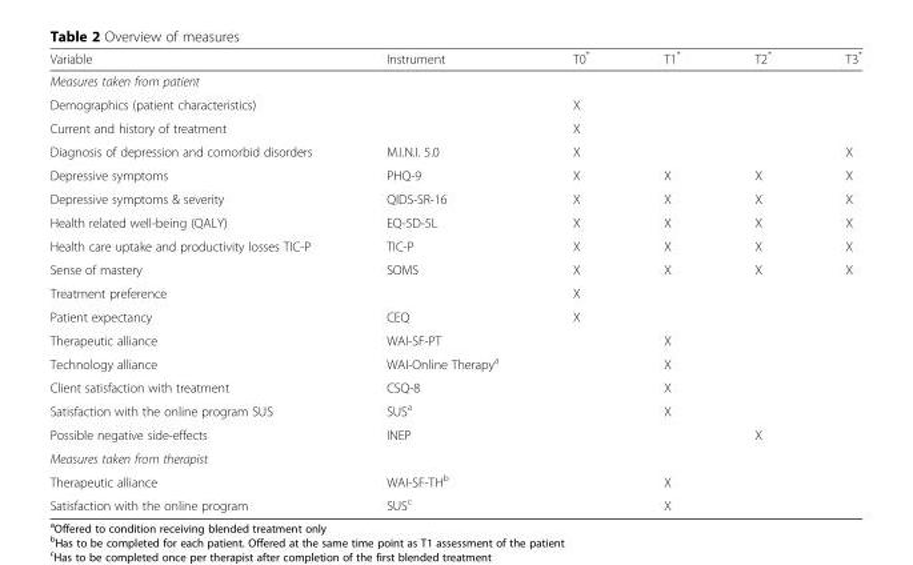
<table><thead><tr><td>Variable</td><td>Instrument</td><td>T0*</td><td>T1*</td><td>T2*</td><td>T3*</td></tr></thead><tbody><tr><td colspan="6">Measures taken from patient</td></tr><tr><td>Demographics (patient characteristics)</td><td></td><td>X</td><td></td><td></td><td></td></tr><tr><td>Current and history of treatment</td><td></td><td>X</td><td></td><td></td><td></td></tr><tr><td>Diagnosis of depression and comorbid disorders</td><td>M.I.N.I. 5.0</td><td>X</td><td></td><td></td><td>X</td></tr><tr><td>Depressive symptoms</td><td>PHQ-9</td><td>X</td><td>X</td><td>X</td><td>X</td></tr><tr><td>Depressive symptoms &amp; severity</td><td>QIDS-SR-16</td><td>X</td><td>X</td><td>X</td><td>X</td></tr><tr><td>Health related well-being (QALY)</td><td>EQ-5D-5L</td><td>X</td><td>X</td><td>X</td><td>X</td></tr><tr><td>Health care uptake and productivity losses TIC-P</td><td>TIC-P</td><td>X</td><td>X</td><td>X</td><td>X</td></tr><tr><td>Sense of mastery</td><td>SOMS</td><td>X</td><td>X</td><td>X</td><td>X</td></tr><tr><td>Treatment preference</td><td></td><td>X</td><td></td><td></td><td></td></tr><tr><td>Patient expectancy</td><td>CEQ</td><td>X</td><td></td><td></td><td></td></tr><tr><td>Therapeutic alliance</td><td>WAI-SF-PT</td><td></td><td>X</td><td></td><td></td></tr><tr><td>Technology alliance</td><td>WAI-Online Therapy<sup>a</sup></td><td></td><td>X</td><td></td><td></td></tr><tr><td>Client satisfaction with treatment</td><td>CSQ-8</td><td></td><td>X</td><td></td><td></td></tr><tr><td>Satisfaction with the online program SUS</td><td>SUS<sup>a</sup></td><td></td><td>X</td><td></td><td></td></tr><tr><td>Possible negative side-effects</td><td>INEP</td><td></td><td></td><td>X</td><td></td></tr><tr><td colspan="6">Measures taken from therapist</td></tr><tr><td>Therapeutic alliance</td><td>WAI-SF-TH<sup>b</sup></td><td></td><td>X</td><td></td><td></td></tr><tr><td>Satisfaction with the online program</td><td>SUS<sup>c</sup></td><td></td><td>X</td><td></td><td></td></tr></tbody></table>